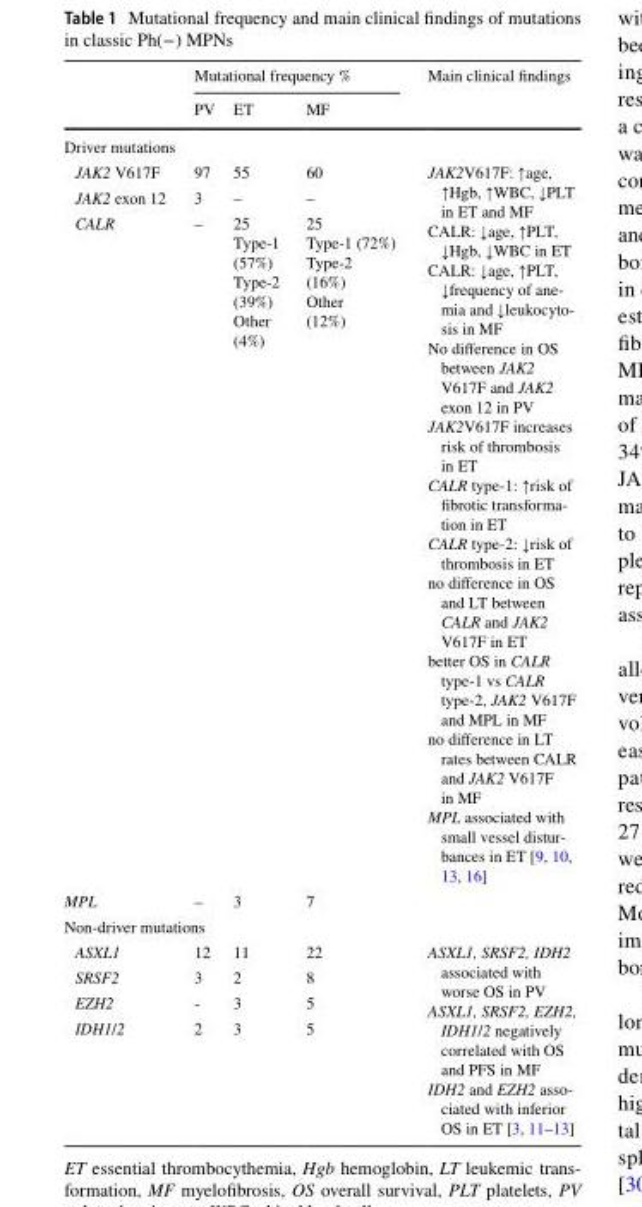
<table><thead><tr><td rowspan="2"></td><td colspan="3">Mutational frequency %</td><td rowspan="2">Main clinical findings</td></tr><tr><td>PV</td><td>ET</td><td>MF</td></tr></thead><tbody><tr><td colspan="5">Driver mutations</td></tr><tr><td>JAK2 V617F</td><td>97</td><td>55</td><td>60</td><td rowspan="3">JAK2V617F: ↑age, ↑Hgb, ↑WBC, ↓PLT in ET and MF CALR: ↓age, ↑PLT, ↓Hgb, ↓WBC in ET CALR: ↓age, ↑PLT, ↓frequency of ane- mia and ↓leukocyto- sis in MF No difference in OS between JAK2 V617F and JAK2 exon 12 in PV JAK2V617F increases risk of thrombosis in ET CALR type-1: ↑risk of fibrotic transforma- tion in ET CALR type-2: ↓risk of thrombosis in ET no difference in OS and LT between CALR and JAK2 V617F in ET better OS in CALR type-1 vs CALR type-2, JAK2 V617F and MPL in MF no difference in LT rates between CALR and JAK2 V617F in MF MPL associated with small vessel distur- bances in ET [9, 10, 13, 16]</td></tr><tr><td>JAK2 exon 12</td><td>3</td><td>–</td><td>–</td></tr><tr><td>CALR</td><td>–</td><td>25 Type-1 (57%) Type-2 (39%) Other (4%)</td><td>25 Type-1 (72%) Type-2 (16%) Other (12%)</td></tr><tr><td>MPL</td><td>–</td><td>3</td><td>7</td><td></td></tr><tr><td colspan="5">Non-driver mutations</td></tr><tr><td>ASXL1</td><td>12</td><td>11</td><td>22</td><td rowspan="4">ASXL1, SRSF2, IDH2 associated with worse OS in PV ASXL1, SRSF2, EZH2, IDH1/2 negatively correlated with OS and PFS in MF IDH2 and EZH2 asso- ciated with inferior OS in ET [3, 11–13]</td></tr><tr><td>SRSF2</td><td>3</td><td>2</td><td>8</td></tr><tr><td>EZH2</td><td>-</td><td>3</td><td>5</td></tr><tr><td>IDH1/2</td><td>2</td><td>3</td><td>5</td></tr></tbody></table>